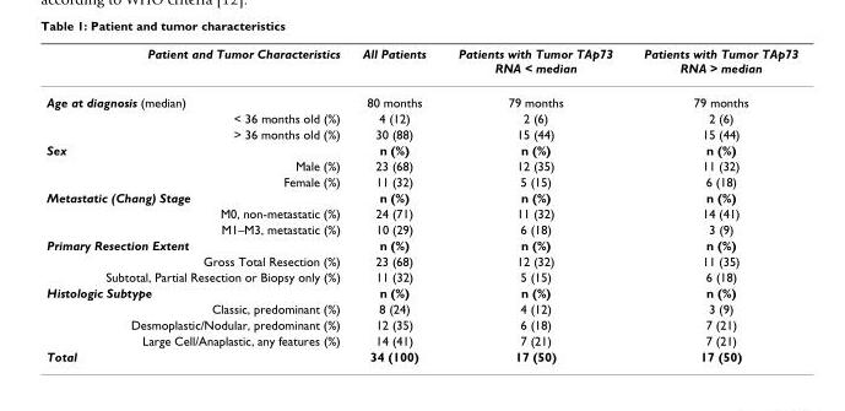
<table><thead><tr><td>Patient and Tumor Characteristics</td><td>All Patients</td><td>Patients with Tumor TAp73 RNA &lt; median</td><td>Patients with Tumor TAp73 RNA &gt; median</td></tr></thead><tbody><tr><td>Age at diagnosis (median)</td><td>80 months</td><td>79 months</td><td>79 months</td></tr><tr><td>&lt; 36 months old (%)</td><td>4 (12)</td><td>2 (6)</td><td>2 (6)</td></tr><tr><td>&gt; 36 months old (%)</td><td>30 (88)</td><td>15 (44)</td><td>15 (44)</td></tr><tr><td>Sex</td><td>n (%)</td><td>n (%)</td><td>n (%)</td></tr><tr><td>Male (%)</td><td>23 (68)</td><td>12 (35)</td><td>11 (32)</td></tr><tr><td>Female (%)</td><td>11 (32)</td><td>5 (15)</td><td>6 (18)</td></tr><tr><td>Metastatic (Chang) Stage</td><td>n (%)</td><td>n (%)</td><td>n (%)</td></tr><tr><td>M0, non-metastatic (%)</td><td>24 (71)</td><td>11 (32)</td><td>14 (41)</td></tr><tr><td>M1–M3, metastatic (%)</td><td>10 (29)</td><td>6 (18)</td><td>3 (9)</td></tr><tr><td>Primary Resection Extent</td><td>n (%)</td><td>n (%)</td><td>n (%)</td></tr><tr><td>Gross Total Resection (%)</td><td>23 (68)</td><td>12 (32)</td><td>11 (35)</td></tr><tr><td>Subtotal, Partial Resection or Biopsy only (%)</td><td>11 (32)</td><td>5 (15)</td><td>6 (18)</td></tr><tr><td>Histologic Subtype</td><td>n (%)</td><td>n (%)</td><td>n (%)</td></tr><tr><td>Classic, predominant (%)</td><td>8 (24)</td><td>4 (12)</td><td>3 (9)</td></tr><tr><td>Desmoplastic/Nodular, predominant (%)</td><td>12 (35)</td><td>6 (18)</td><td>7 (21)</td></tr><tr><td>Large Cell/Anaplastic, any features (%)</td><td>14 (41)</td><td>7 (21)</td><td>7 (21)</td></tr><tr><td>Total</td><td>34 (100)</td><td>17 (50)</td><td>17 (50)</td></tr></tbody></table>